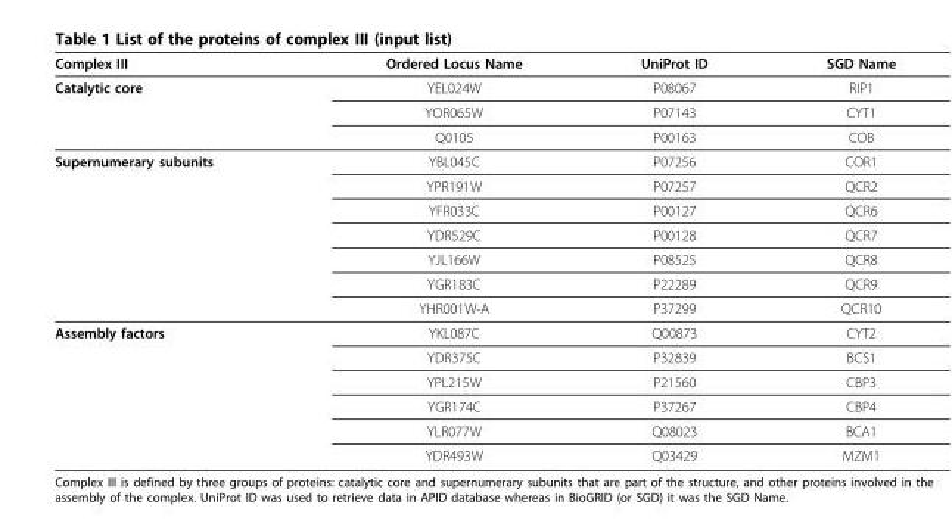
<table><thead><tr><td>Complex III</td><td>Ordered Locus Name</td><td>UniProt ID</td><td>SGD Name</td></tr></thead><tbody><tr><td rowspan="3">Catalytic core</td><td>YEL024W</td><td>P08067</td><td>RIP1</td></tr><tr><td>YOR065W</td><td>P07143</td><td>CYT1</td></tr><tr><td>Q0105</td><td>P00163</td><td>COB</td></tr><tr><td rowspan="7">Supernumerary subunits</td><td>YBL045C</td><td>P07256</td><td>COR1</td></tr><tr><td>YPR191W</td><td>P07257</td><td>QCR2</td></tr><tr><td>YFR033C</td><td>P00127</td><td>QCR6</td></tr><tr><td>YDR529C</td><td>P00128</td><td>QCR7</td></tr><tr><td>YJL166W</td><td>P08525</td><td>QCR8</td></tr><tr><td>YGR183C</td><td>P22289</td><td>QCR9</td></tr><tr><td>YHR001W-A</td><td>P37299</td><td>QCR10</td></tr><tr><td rowspan="6">Assembly factors</td><td>YKL087C</td><td>Q00873</td><td>CYT2</td></tr><tr><td>YDR375C</td><td>P32839</td><td>BCS1</td></tr><tr><td>YPL215W</td><td>P21560</td><td>CBP3</td></tr><tr><td>YGR174C</td><td>P37267</td><td>CBP4</td></tr><tr><td>YLR077W</td><td>Q08023</td><td>BCA1</td></tr><tr><td>YDR493W</td><td>Q03429</td><td>MZM1</td></tr></tbody></table>